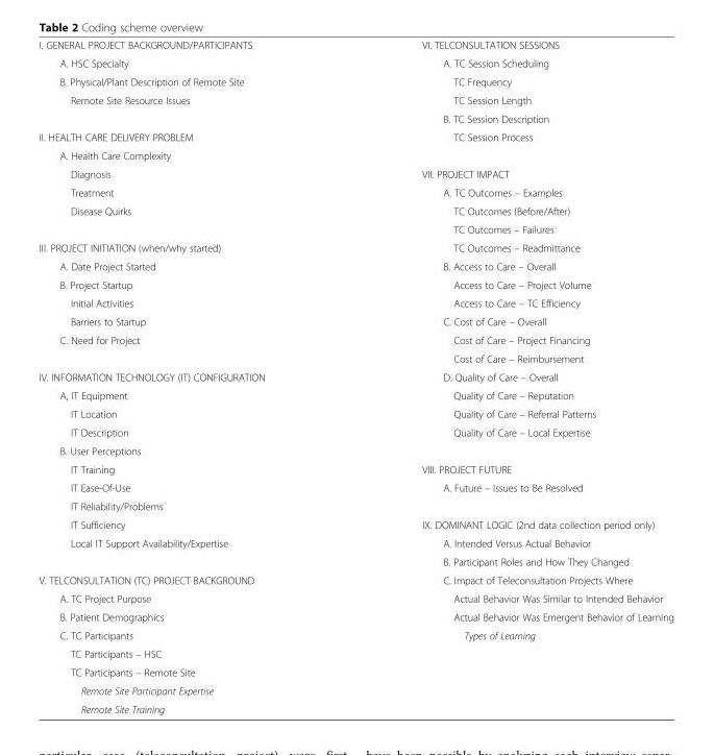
<table><tbody><tr><td>I. GENERAL PROJECT BACKGROUND/PARTICIPANTS</td><td>VI. TELCONSULTATION SESSIONS</td></tr><tr><td>A. HSC Specialty</td><td>A. TC Session Scheduling</td></tr><tr><td>B. Physical/Plant Description of Remote Site</td><td>TC Frequency</td></tr><tr><td rowspan="2">Remote Site Resource Issues</td><td>TC Session Length</td></tr><tr><td>B. TC Session Description</td></tr><tr><td>II. HEALTH CARE DELIVERY PROBLEM</td><td>TC Session Process</td></tr><tr><td colspan="2">A. Health Care Complexity</td></tr><tr><td>Diagnosis</td><td>VII. PROJECT IMPACT</td></tr><tr><td>Treatment</td><td>A. TC Outcomes – Examples</td></tr><tr><td rowspan="2">Disease Quirks</td><td>TC Outcomes (Before/After)</td></tr><tr><td>TC Outcomes – Failures</td></tr><tr><td>III. PROJECT INITIATION (when/why started)</td><td>TC Outcomes – Readmittance</td></tr><tr><td>A. Date Project Started</td><td>B. Access to Care – Overall</td></tr><tr><td>B. Project Startup</td><td>Access to Care – Project Volume</td></tr><tr><td>Initial Activities</td><td>Access to Care – TC Efficiency</td></tr><tr><td>Barriers to Startup</td><td>C. Cost of Care – Overall</td></tr><tr><td rowspan="2">C. Need for Project</td><td>Cost of Care – Project Financing</td></tr><tr><td>Cost of Care – Reimbursement</td></tr><tr><td>IV. INFORMATION TECHNOLOGY (IT) CONFIGURATION</td><td>D. Quality of Care – Overall</td></tr><tr><td>A, IT Equipment</td><td>Quality of Care – Reputation</td></tr><tr><td>IT Location</td><td>Quality of Care – Referral Patterns</td></tr><tr><td>IT Description</td><td>Quality of Care – Local Expertise</td></tr><tr><td colspan="2">B. User Perceptions</td></tr><tr><td>IT Training</td><td>VIII. PROJECT FUTURE</td></tr><tr><td>IT Ease-Of-Use</td><td>A. Future – Issues to Be Resolved</td></tr><tr><td colspan="2">IT Reliability/Problems</td></tr><tr><td>IT Sufficiency</td><td>IX. DOMINANT LOGIC (2nd data collection period only)</td></tr><tr><td rowspan="2">Local IT Support Availability/Expertise</td><td>A. Intended Versus Actual Behavior</td></tr><tr><td>B. Participant Roles and How They Changed</td></tr><tr><td>V. TELCONSULTATION (TC) PROJECT BACKGROUND</td><td>C. Impact of Teleconsultation Projects Where</td></tr><tr><td>A. TC Project Purpose</td><td>Actual Behavior Was Similar to Intended Behavior</td></tr><tr><td>B. Patient Demographics</td><td>Actual Behavior Was Emergent Behavior of Learning</td></tr><tr><td>C. TC Participants</td><td>Types of Learning</td></tr><tr><td colspan="2">TC Participants – HSC</td></tr><tr><td colspan="2">TC Participants – Remote Site</td></tr><tr><td colspan="2">Remote Site Participant Expertise</td></tr><tr><td>Remote Site Training</td><td></td></tr></tbody></table>